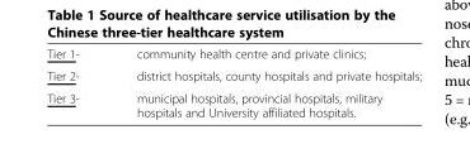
<table><tbody><tr><td>Tier 1-</td><td>community health centre and private clinics;</td></tr><tr><td>Tier 2-</td><td>district hospitals, county hospitals and private hospitals;</td></tr><tr><td>Tier 3-</td><td>municipal hospitals, provincial hospitals, military hospitals and University affiliated hospitals.</td></tr></tbody></table>